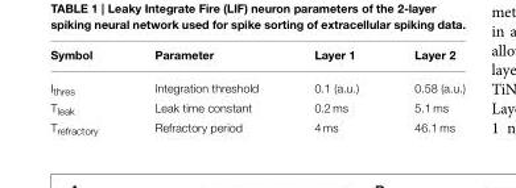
<table><thead><tr><td>Symbol</td><td>Parameter</td><td>Layer 1</td><td>Layer 2</td></tr></thead><tbody><tr><td>I<sub>thres</sub></td><td>Integration threshold</td><td>0.1 (a.u.)</td><td>0.58 (a.u.)</td></tr><tr><td>T<sub>leak</sub></td><td>Leak time constant</td><td>0.2 ms</td><td>5.1 ms</td></tr><tr><td>T<sub>refractory</sub></td><td>Refractory period</td><td>4 ms</td><td>46.1 ms</td></tr></tbody></table>